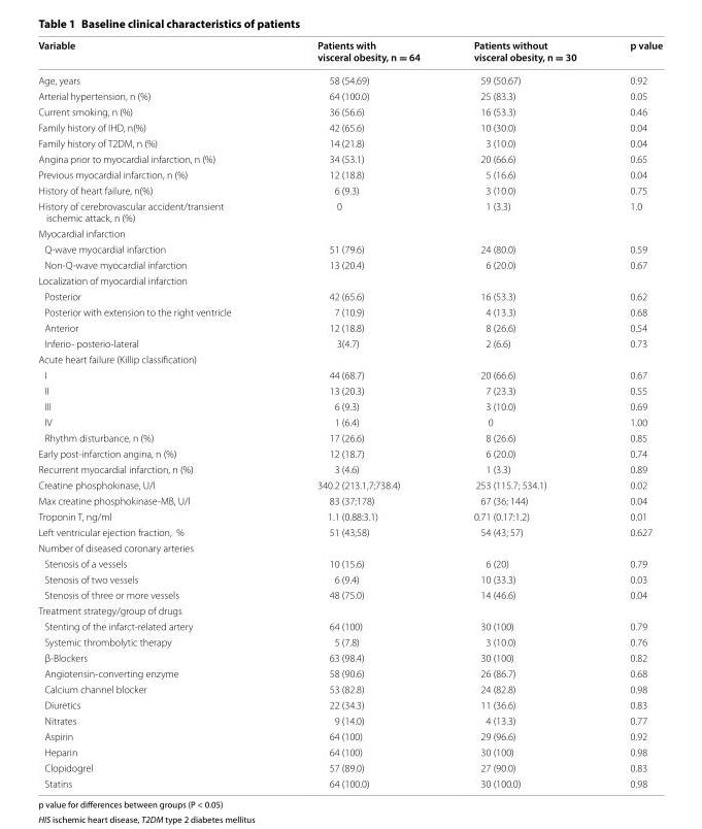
<table><thead><tr><td>Variable</td><td>Patients with visceral obesity, n = 64</td><td>Patients without visceral obesity, n = 30</td><td>p value</td></tr></thead><tbody><tr><td>Age, years</td><td>58 (54.69)</td><td>59 (50.67)</td><td>0.92</td></tr><tr><td>Arterial hypertension, n (%)</td><td>64 (100.0)</td><td>25 (83.3)</td><td>0.05</td></tr><tr><td>Current smoking, n (%)</td><td>36 (56.6)</td><td>16 (53.3)</td><td>0.46</td></tr><tr><td>Family history of IHD, n(%)</td><td>42 (65.6)</td><td>10 (30.0)</td><td>0.04</td></tr><tr><td>Family history of T2DM, n (%)</td><td>14 (21.8)</td><td>3 (10.0)</td><td>0.04</td></tr><tr><td>Angina prior to myocardial infarction, n (%)</td><td>34 (53.1)</td><td>20 (66.6)</td><td>0.65</td></tr><tr><td>Previous myocardial infarction, n (%)</td><td>12 (18.8)</td><td>5 (16.6)</td><td>0.04</td></tr><tr><td>History of heart failure, n(%)</td><td>6 (9.3)</td><td>3 (10.0)</td><td>0.75</td></tr><tr><td>History of cerebrovascular accident/transient ischemic attack, n (%)</td><td>0</td><td>1 (3.3)</td><td>1.0</td></tr><tr><td colspan="4">Myocardial infarction</td></tr><tr><td>Q-wave myocardial infarction</td><td>51 (79.6)</td><td>24 (80.0)</td><td>0.59</td></tr><tr><td>Non-Q-wave myocardial infarction</td><td>13 (20.4)</td><td>6 (20.0)</td><td>0.67</td></tr><tr><td colspan="4">Localization of myocardial infarction</td></tr><tr><td>Posterior</td><td>42 (65.6)</td><td>16 (53.3)</td><td>0.62</td></tr><tr><td>Posterior with extension to the right ventricle</td><td>7 (10.9)</td><td>4 (13.3)</td><td>0.68</td></tr><tr><td>Anterior</td><td>12 (18.8)</td><td>8 (26.6)</td><td>0.54</td></tr><tr><td>Inferio- posterio-lateral</td><td>3(4.7)</td><td>2 (6.6)</td><td>0.73</td></tr><tr><td colspan="4">Acute heart failure (Killip classification)</td></tr><tr><td>I</td><td>44 (68.7)</td><td>20 (66.6)</td><td>0.67</td></tr><tr><td>II</td><td>13 (20.3)</td><td>7 (23.3)</td><td>0.55</td></tr><tr><td>III</td><td>6 (9.3)</td><td>3 (10.0)</td><td>0.69</td></tr><tr><td>IV</td><td>1 (6.4)</td><td>0</td><td>1.00</td></tr><tr><td>Rhythm disturbance, n (%)</td><td>17 (26.6)</td><td>8 (26.6)</td><td>0.85</td></tr><tr><td>Early post-infarction angina, n (%)</td><td>12 (18.7)</td><td>6 (20.0)</td><td>0.74</td></tr><tr><td>Recurrent myocardial infarction, n (%)</td><td>3 (4.6)</td><td>1 (3.3)</td><td>0.89</td></tr><tr><td>Creatine phosphokinase, U/l</td><td>340.2 (213.1,7;738.4)</td><td>253 (115.7; 534.1)</td><td>0.02</td></tr><tr><td>Max creatine phosphokinase-MB, U/l</td><td>83 (37;178)</td><td>67 (36; 144)</td><td>0.04</td></tr><tr><td>Troponin T, ng/ml</td><td>1.1 (0.88:3.1)</td><td>0.71 (0.17:1.2)</td><td>0.01</td></tr><tr><td>Left ventricular ejection fraction, %</td><td>51 (43;58)</td><td>54 (43; 57)</td><td>0.627</td></tr><tr><td colspan="4">Number of diseased coronary arteries</td></tr><tr><td>Stenosis of a vessels</td><td>10 (15.6)</td><td>6 (20)</td><td>0.79</td></tr><tr><td>Stenosis of two vessels</td><td>6 (9.4)</td><td>10 (33.3)</td><td>0.03</td></tr><tr><td>Stenosis of three or more vessels</td><td>48 (75.0)</td><td>14 (46.6)</td><td>0.04</td></tr><tr><td colspan="4">Treatment strategy/group of drugs</td></tr><tr><td>Stenting of the infarct-related artery</td><td>64 (100)</td><td>30 (100)</td><td>0.79</td></tr><tr><td>Systemic thrombolytic therapy</td><td>5 (7.8)</td><td>3 (10.0)</td><td>0.76</td></tr><tr><td>β-Blockers</td><td>63 (98.4)</td><td>30 (100)</td><td>0.82</td></tr><tr><td>Angiotensin-converting enzyme</td><td>58 (90.6)</td><td>26 (86.7)</td><td>0.68</td></tr><tr><td>Calcium channel blocker</td><td>53 (82.8)</td><td>24 (82.8)</td><td>0.98</td></tr><tr><td>Diuretics</td><td>22 (34.3)</td><td>11 (36.6)</td><td>0.83</td></tr><tr><td>Nitrates</td><td>9 (14.0)</td><td>4 (13.3)</td><td>0.77</td></tr><tr><td>Aspirin</td><td>64 (100)</td><td>29 (96.6)</td><td>0.92</td></tr><tr><td>Heparin</td><td>64 (100)</td><td>30 (100)</td><td>0.98</td></tr><tr><td>Clopidogrel</td><td>57 (89.0)</td><td>27 (90.0)</td><td>0.83</td></tr><tr><td>Statins</td><td>64 (100.0)</td><td>30 (100.0)</td><td>0.98</td></tr></tbody></table>